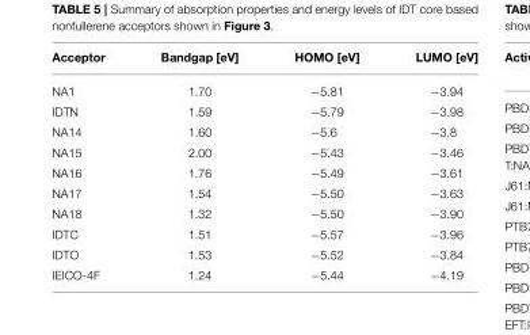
<table><thead><tr><td>Acceptor</td><td>Bandgap [eV]</td><td>HOMO [eV]</td><td>LUMO [eV]</td></tr></thead><tbody><tr><td>NA1</td><td>1.70</td><td>−5.81</td><td>−3.94</td></tr><tr><td>IDTN</td><td>1.59</td><td>−5.79</td><td>−3.98</td></tr><tr><td>NA14</td><td>1.60</td><td>−5.6</td><td>−3.8</td></tr><tr><td>NA15</td><td>2.00</td><td>−5.43</td><td>−3.46</td></tr><tr><td>NA16</td><td>1.76</td><td>−5.49</td><td>−3.61</td></tr><tr><td>NA17</td><td>1.54</td><td>−5.50</td><td>−3.63</td></tr><tr><td>NA18</td><td>1.32</td><td>−5.50</td><td>−3.90</td></tr><tr><td>IDTC</td><td>1.51</td><td>−5.57</td><td>−3.96</td></tr><tr><td>IDTO</td><td>1.53</td><td>−5.52</td><td>−3.84</td></tr><tr><td>IEICO-4F</td><td>1.24</td><td>−5.44</td><td>−4.19</td></tr></tbody></table>